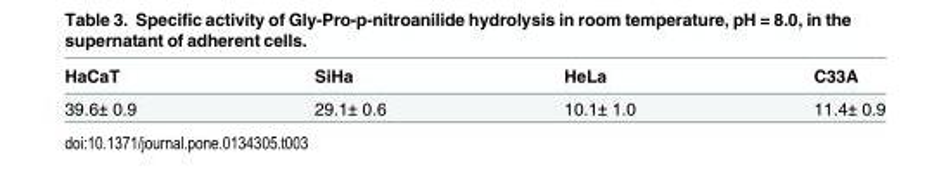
<table><thead><tr><td>HaCaT</td><td>SiHa</td><td>HeLa</td><td>C33A</td></tr></thead><tbody><tr><td>39.6± 0.9</td><td>29.1± 0.6</td><td>10.1± 1.0</td><td>11.4± 0.9</td></tr></tbody></table>